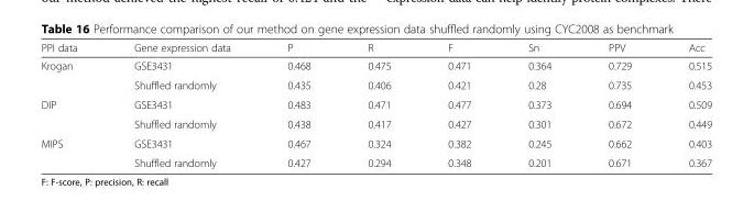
<table><thead><tr><td>PPI data</td><td>Gene expression data</td><td>P</td><td>R</td><td>F</td><td>Sn</td><td>PPV</td><td>Acc</td></tr></thead><tbody><tr><td rowspan="2">Krogan</td><td>GSE3431</td><td>0.468</td><td>0.475</td><td>0.471</td><td>0.364</td><td>0.729</td><td>0.515</td></tr><tr><td>Shuffled randomly</td><td>0.435</td><td>0.406</td><td>0.421</td><td>0.28</td><td>0.735</td><td>0.453</td></tr><tr><td rowspan="2">DIP</td><td>GSE3431</td><td>0.483</td><td>0.471</td><td>0.477</td><td>0.373</td><td>0.694</td><td>0.509</td></tr><tr><td>Shuffled randomly</td><td>0.438</td><td>0.417</td><td>0.427</td><td>0.301</td><td>0.672</td><td>0.449</td></tr><tr><td rowspan="2">MIPS</td><td>GSE3431</td><td>0.467</td><td>0.324</td><td>0.382</td><td>0.245</td><td>0.662</td><td>0.403</td></tr><tr><td>Shuffled randomly</td><td>0.427</td><td>0.294</td><td>0.348</td><td>0.201</td><td>0.671</td><td>0.367</td></tr></tbody></table>